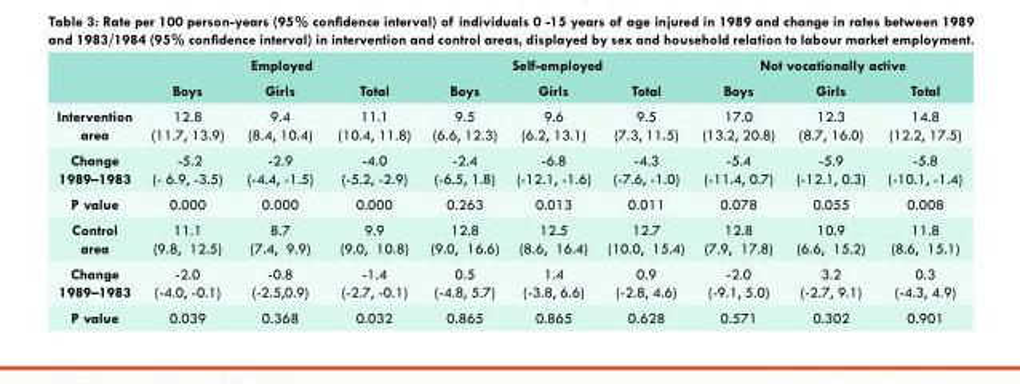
<table><thead><tr><td rowspan="2"></td><td colspan="3">Employed</td><td colspan="3">Self-employed</td><td colspan="3">Not vocationally active</td></tr><tr><td>Boys</td><td>Girls</td><td>Total</td><td>Boys</td><td>Girls</td><td>Total</td><td>Boys</td><td>Girls</td><td>Total</td></tr></thead><tbody><tr><td>Intervention area</td><td>12.8 (11.7, 13.9)</td><td>9.4 (8.4, 10.4)</td><td>11.1 (10.4, 11.8)</td><td>9.5 (6.6, 12.3)</td><td>9.6 (6.2, 13.1)</td><td>9.5 (7.3, 11.5)</td><td>17.0 (13.2, 20.8)</td><td>12.3 (8.7, 16.0)</td><td>14.8 (12.2, 17.5)</td></tr><tr><td>Change 1989–1983</td><td>-5.2 (- 6.9, -3.5)</td><td>-2.9 (-4.4, -1.5)</td><td>-4.0 (-5.2, -2.9)</td><td>-2.4 (-6.5, 1.8)</td><td>-6.8 (-12.1, -1.6)</td><td>-4.3 (-7.6, -1.0)</td><td>-5.4 (-11.4, 0.7)</td><td>-5.9 (-12.1, 0.3)</td><td>-5.8 (-10.1, -1.4)</td></tr><tr><td>P value</td><td>0.000</td><td>0.000</td><td>0.000</td><td>0.263</td><td>0.013</td><td>0.011</td><td>0.078</td><td>0.055</td><td>0.008</td></tr><tr><td>Control area</td><td>11.1 (9.8, 12.5)</td><td>8.7 (7.4, 9.9)</td><td>9.9 (9.0, 10.8)</td><td>12.8 (9.0, 16.6)</td><td>12.5 (8.6, 16.4)</td><td>12.7 (10.0, 15.4)</td><td>12.8 (7.9, 17.8)</td><td>10.9 (6.6, 15.2)</td><td>11.8 (8.6, 15.1)</td></tr><tr><td>Change 1989–1983</td><td>-2.0 (-4.0, -0.1)</td><td>-0.8 (-2.5,0.9)</td><td>-1.4 (-2.7, -0.1)</td><td>0.5 (-4.8, 5.7)</td><td>1.4 (-3.8, 6.6)</td><td>0.9 (-2.8, 4.6)</td><td>-2.0 (-9.1, 5.0)</td><td>3.2 (-2.7, 9.1)</td><td>0.3 (-4.3, 4.9)</td></tr><tr><td>P value</td><td>0.039</td><td>0.368</td><td>0.032</td><td>0.865</td><td>0.865</td><td>0.628</td><td>0.571</td><td>0.302</td><td>0.901</td></tr></tbody></table>